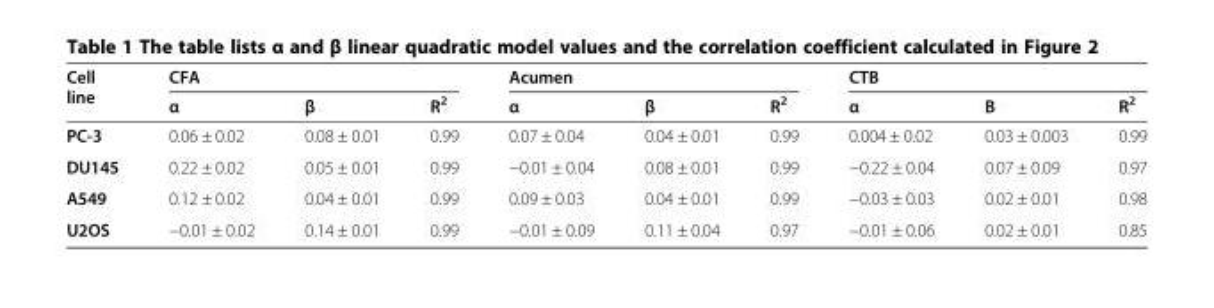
<table><thead><tr><td rowspan="2">Cell line</td><td colspan="3">CFA</td><td colspan="3">Acumen</td><td colspan="3">CTB</td></tr><tr><td>α</td><td>β</td><td>R<sup>2</sup></td><td>α</td><td>β</td><td>R<sup>2</sup></td><td>α</td><td>B</td><td>R<sup>2</sup></td></tr></thead><tbody><tr><td>PC-3</td><td>0.06 ± 0.02</td><td>0.08 ± 0.01</td><td>0.99</td><td>0.07 ± 0.04</td><td>0.04 ± 0.01</td><td>0.99</td><td>0.004 ± 0.02</td><td>0.03 ± 0.003</td><td>0.99</td></tr><tr><td>DU145</td><td>0.22 ± 0.02</td><td>0.05 ± 0.01</td><td>0.99</td><td>−0.01 ± 0.04</td><td>0.08 ± 0.01</td><td>0.99</td><td>−0.22 ± 0.04</td><td>0.07 ± 0.09</td><td>0.97</td></tr><tr><td>A549</td><td>0.12 ± 0.02</td><td>0.04 ± 0.01</td><td>0.99</td><td>0.09 ± 0.03</td><td>0.04 ± 0.01</td><td>0.99</td><td>−0.03 ± 0.03</td><td>0.02 ± 0.01</td><td>0.98</td></tr><tr><td>U2OS</td><td>−0.01 ± 0.02</td><td>0.14 ± 0.01</td><td>0.99</td><td>−0.01 ± 0.09</td><td>0.11 ± 0.04</td><td>0.97</td><td>−0.01 ± 0.06</td><td>0.02 ± 0.01</td><td>0.85</td></tr></tbody></table>